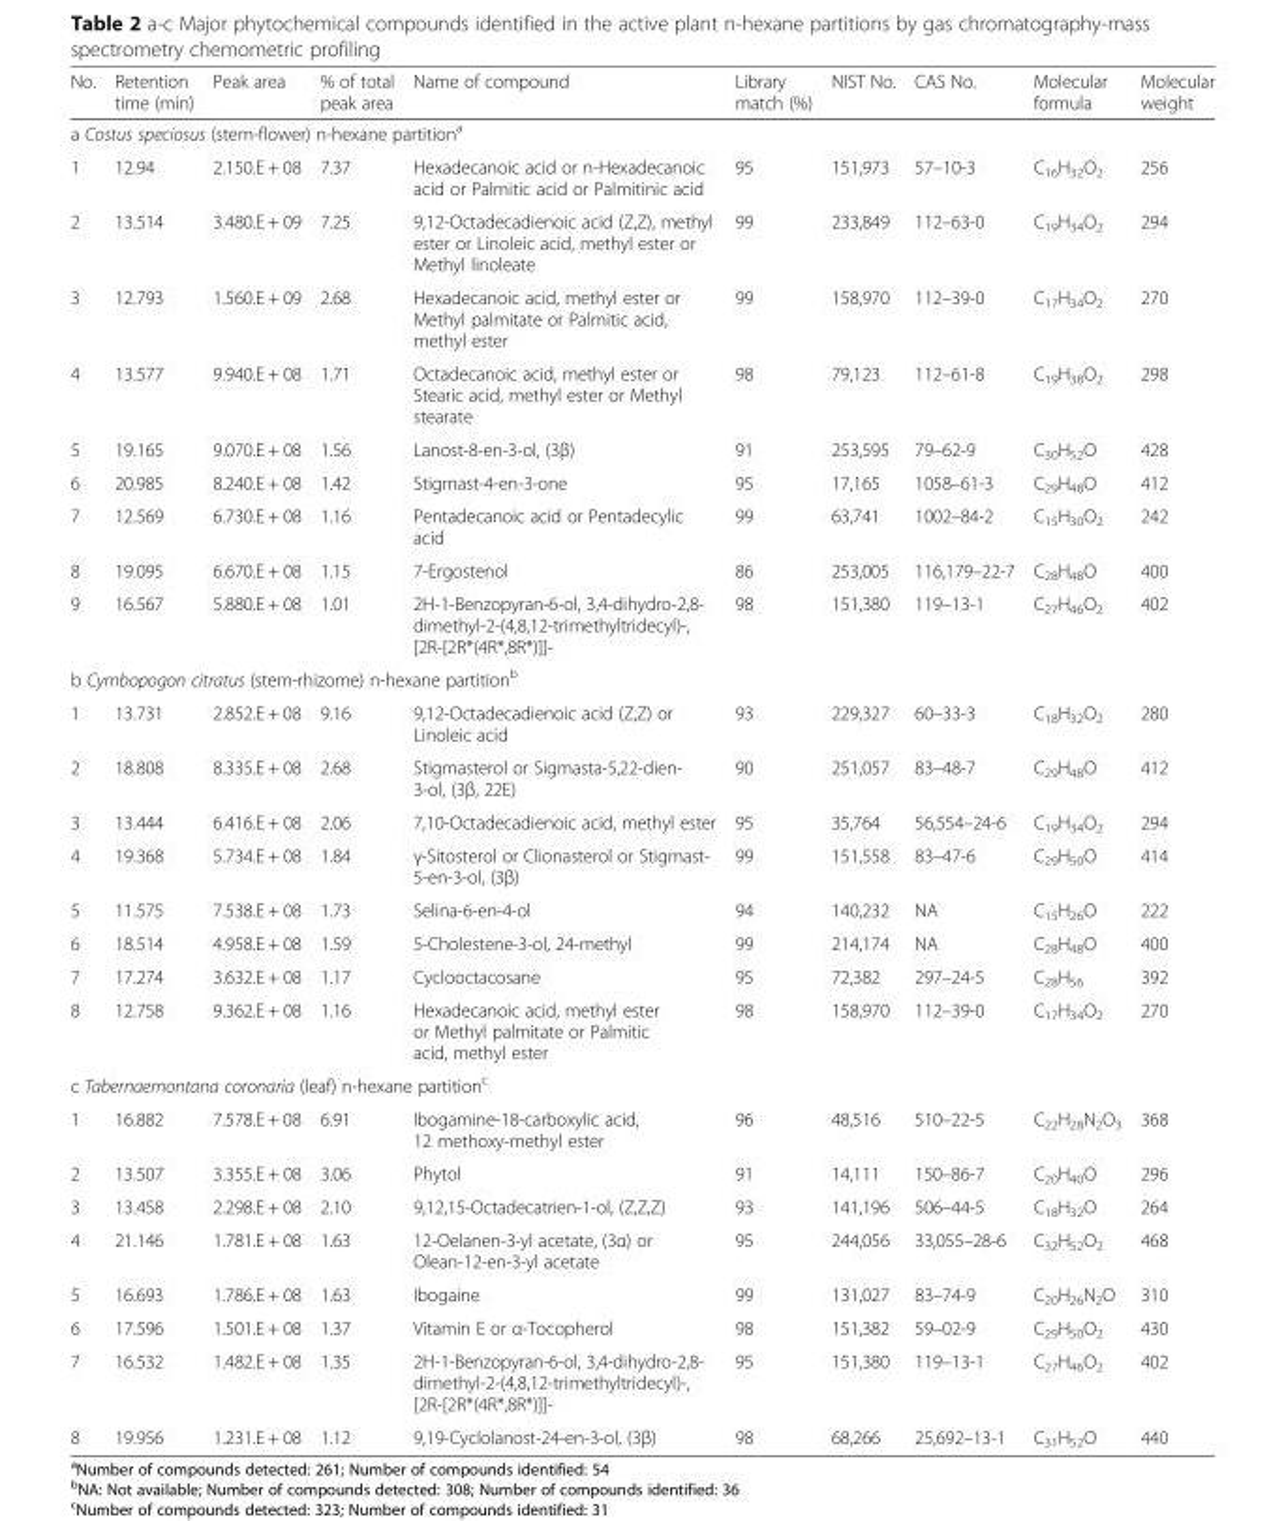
<table><thead><tr><td>No.</td><td>Retention time (min)</td><td>Peak area</td><td>% of total peak area</td><td>Name of compound</td><td>Library match (%)</td><td>NIST No.</td><td>CAS No.</td><td>Molecular formula</td><td>Molecular weight</td></tr></thead><tbody><tr><td colspan="10">a Costus speciosus (stem-flower) n-hexane partition<sup>a</sup></td></tr><tr><td>1</td><td>12.94</td><td>2.150.E + 08</td><td>7.37</td><td>Hexadecanoic acid or n-Hexadecanoic acid or Palmitic acid or Palmitinic acid</td><td>95</td><td>151,973</td><td>57–10-3</td><td>C<sub>16</sub>H<sub>32</sub>O<sub>2</sub></td><td>256</td></tr><tr><td>2</td><td>13.514</td><td>3.480.E + 09</td><td>7.25</td><td>9,12-Octadecadienoic acid (Z,Z), methyl ester or Linoleic acid, methyl ester or Methyl linoleate</td><td>99</td><td>233,849</td><td>112–63-0</td><td>C<sub>19</sub>H<sub>34</sub>O<sub>2</sub></td><td>294</td></tr><tr><td>3</td><td>12.793</td><td>1.560.E + 09</td><td>2.68</td><td>Hexadecanoic acid, methyl ester or Methyl palmitate or Palmitic acid, methyl ester</td><td>99</td><td>158,970</td><td>112–39-0</td><td>C<sub>17</sub>H<sub>34</sub>O<sub>2</sub></td><td>270</td></tr><tr><td>4</td><td>13.577</td><td>9.940.E + 08</td><td>1.71</td><td>Octadecanoic acid, methyl ester or Stearic acid, methyl ester or Methyl stearate</td><td>98</td><td>79,123</td><td>112–61-8</td><td>C<sub>19</sub>H<sub>38</sub>O<sub>2</sub></td><td>298</td></tr><tr><td>5</td><td>19.165</td><td>9.070.E + 08</td><td>1.56</td><td>Lanost-8-en-3-ol, (3β)</td><td>91</td><td>253,595</td><td>79–62-9</td><td>C<sub>30</sub>H<sub>52</sub>O</td><td>428</td></tr><tr><td>6</td><td>20.985</td><td>8.240.E + 08</td><td>1.42</td><td>Stigmast-4-en-3-one</td><td>95</td><td>17,165</td><td>1058–61-3</td><td>C<sub>29</sub>H<sub>48</sub>O</td><td>412</td></tr><tr><td>7</td><td>12.569</td><td>6.730.E + 08</td><td>1.16</td><td>Pentadecanoic acid or Pentadecylic acid</td><td>99</td><td>63,741</td><td>1002–84-2</td><td>C<sub>15</sub>H<sub>30</sub>O<sub>2</sub></td><td>242</td></tr><tr><td>8</td><td>19.095</td><td>6.670.E + 08</td><td>1.15</td><td>7-Ergostenol</td><td>86</td><td>253,005</td><td>116,179–22-7</td><td>C<sub>28</sub>H<sub>48</sub>O</td><td>400</td></tr><tr><td>9</td><td>16.567</td><td>5.880.E + 08</td><td>1.01</td><td>2H-1-Benzopyran-6-ol, 3,4-dihydro-2,8- dimethyl-2-(4,8,12-trimethyltridecyl)-, [2R-[2R*(4R*,8R*)]]-</td><td>98</td><td>151,380</td><td>119–13-1</td><td>C<sub>27</sub>H<sub>46</sub>O<sub>2</sub></td><td>402</td></tr><tr><td colspan="10">b Cymbopogon citratus (stem-rhizome) n-hexane partition<sup>b</sup></td></tr><tr><td>1</td><td>13.731</td><td>2.852.E + 08</td><td>9.16</td><td>9,12-Octadecadienoic acid (Z,Z) or Linoleic acid</td><td>93</td><td>229,327</td><td>60–33-3</td><td>C<sub>18</sub>H<sub>32</sub>O<sub>2</sub></td><td>280</td></tr><tr><td>2</td><td>18.808</td><td>8.335.E + 08</td><td>2.68</td><td>Stigmasterol or Sigmasta-5,22-dien- 3-ol, (3β, 22E)</td><td>90</td><td>251,057</td><td>83–48-7</td><td>C<sub>29</sub>H<sub>48</sub>O</td><td>412</td></tr><tr><td>3</td><td>13.444</td><td>6.416.E + 08</td><td>2.06</td><td>7,10-Octadecadienoic acid, methyl ester</td><td>95</td><td>35,764</td><td>56,554–24-6</td><td>C<sub>19</sub>H<sub>34</sub>O<sub>2</sub></td><td>294</td></tr><tr><td>4</td><td>19.368</td><td>5.734.E + 08</td><td>1.84</td><td>γ-Sitosterol or Clionasterol or Stigmast- 5-en-3-ol, (3β)</td><td>99</td><td>151,558</td><td>83–47-6</td><td>C<sub>29</sub>H<sub>50</sub>O</td><td>414</td></tr><tr><td>5</td><td>11.575</td><td>7.538.E + 08</td><td>1.73</td><td>Selina-6-en-4-ol</td><td>94</td><td>140,232</td><td>NA</td><td>C<sub>15</sub>H<sub>26</sub>O</td><td>222</td></tr><tr><td>6</td><td>18.514</td><td>4.958.E + 08</td><td>1.59</td><td>5-Cholestene-3-ol, 24-methyl</td><td>99</td><td>214,174</td><td>NA</td><td>C<sub>28</sub>H<sub>48</sub>O</td><td>400</td></tr><tr><td>7</td><td>17.274</td><td>3.632.E + 08</td><td>1.17</td><td>Cyclooctacosane</td><td>95</td><td>72,382</td><td>297–24-5</td><td>C<sub>28</sub>H<sub>56</sub></td><td>392</td></tr><tr><td>8</td><td>12.758</td><td>9.362.E + 08</td><td>1.16</td><td>Hexadecanoic acid, methyl ester or Methyl palmitate or Palmitic acid, methyl ester</td><td>98</td><td>158,970</td><td>112–39-0</td><td>C<sub>17</sub>H<sub>34</sub>O<sub>2</sub></td><td>270</td></tr><tr><td colspan="10">c Tabernaemontana coronaria (leaf) n-hexane partition<sup>c</sup></td></tr><tr><td>1</td><td>16.882</td><td>7.578.E + 08</td><td>6.91</td><td>Ibogamine-18-carboxylic acid, 12 methoxy-methyl ester</td><td>96</td><td>48,516</td><td>510–22-5</td><td>C<sub>22</sub>H<sub>28</sub>N<sub>2</sub>O<sub>3</sub></td><td>368</td></tr><tr><td>2</td><td>13.507</td><td>3.355.E + 08</td><td>3.06</td><td>Phytol</td><td>91</td><td>14,111</td><td>150–86-7</td><td>C<sub>20</sub>H<sub>40</sub>O</td><td>296</td></tr><tr><td>3</td><td>13.458</td><td>2.298.E + 08</td><td>2.10</td><td>9,12,15-Octadecatrien-1-ol, (Z,Z,Z)</td><td>93</td><td>141,196</td><td>506–44-5</td><td>C<sub>18</sub>H<sub>32</sub>O</td><td>264</td></tr><tr><td>4</td><td>21.146</td><td>1.781.E + 08</td><td>1.63</td><td>12-Oelanen-3-yl acetate, (3α) or Olean-12-en-3-yl acetate</td><td>95</td><td>244,056</td><td>33,055–28-6</td><td>C<sub>32</sub>H<sub>52</sub>O<sub>2</sub></td><td>468</td></tr><tr><td>5</td><td>16.693</td><td>1.786.E + 08</td><td>1.63</td><td>Ibogaine</td><td>99</td><td>131,027</td><td>83–74-9</td><td>C<sub>20</sub>H<sub>26</sub>N<sub>2</sub>O</td><td>310</td></tr><tr><td>6</td><td>17.596</td><td>1.501.E + 08</td><td>1.37</td><td>Vitamin E or α-Tocopherol</td><td>98</td><td>151,382</td><td>59–02-9</td><td>C<sub>29</sub>H<sub>50</sub>O<sub>2</sub></td><td>430</td></tr><tr><td>7</td><td>16.532</td><td>1.482.E + 08</td><td>1.35</td><td>2H-1-Benzopyran-6-ol, 3,4-dihydro-2,8- dimethyl-2-(4,8,12-trimethyltridecyl)-, [2R-[2R*(4R*,8R*)]]-</td><td>95</td><td>151,380</td><td>119–13-1</td><td>C<sub>27</sub>H<sub>46</sub>O<sub>2</sub></td><td>402</td></tr><tr><td>8</td><td>19.956</td><td>1.231.E + 08</td><td>1.12</td><td>9,19-Cyclolanost-24-en-3-ol, (3β)</td><td>98</td><td>68,266</td><td>25,692–13-1</td><td>C<sub>31</sub>H<sub>52</sub>O</td><td>440</td></tr></tbody></table>